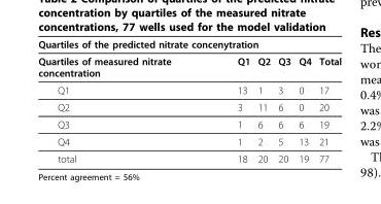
<table><thead><tr><td colspan="5">Quartiles of the predicted nitrate concenytration</td><td rowspan="2">Total</td></tr><tr><td>Quartiles of measured nitrate concentration</td><td>Q1</td><td>Q2</td><td>Q3</td><td>Q4</td></tr></thead><tbody><tr><td>Q1</td><td>13</td><td>1</td><td>3</td><td>0</td><td>17</td></tr><tr><td>Q2</td><td>3</td><td>11</td><td>6</td><td>0</td><td>20</td></tr><tr><td>Q3</td><td>1</td><td>6</td><td>6</td><td>6</td><td>19</td></tr><tr><td>Q4</td><td>1</td><td>2</td><td>5</td><td>13</td><td>21</td></tr><tr><td>total</td><td>18</td><td>20</td><td>20</td><td>19</td><td>77</td></tr></tbody></table>